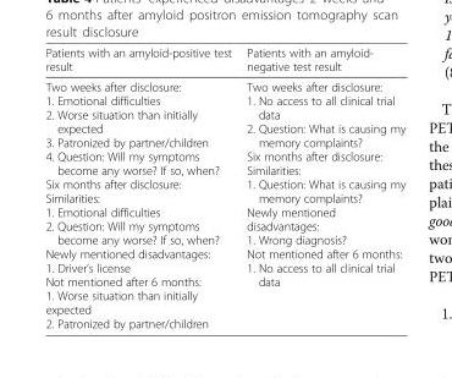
<table><thead><tr><td>Patients with an amyloid-positive test result</td><td>Patients with an amyloid- negative test result</td></tr></thead><tbody><tr><td>Two weeks after disclosure: 1. Emotional difficulties 2. Worse situation than initially expected 3. Patronized by partner/children 4. Question: Will my symptoms become any worse? If so, when? Six months after disclosure: Similarities: 1. Emotional difficulties 2. Question: Will my symptoms become any worse? If so, when? Newly mentioned disadvantages: 1. Driver’s license Not mentioned after 6 months: 1. Worse situation than initially expected 2. Patronized by partner/children</td><td>Two weeks after disclosure: 1. No access to all clinical trial data 2. Question: What is causing my memory complaints? Six months after disclosure: Similarities: 1. Question: What is causing my memory complaints? Newly mentioned disadvantages: 1. Wrong diagnosis? Not mentioned after 6 months: 1. No access to all clinical trial data</td></tr></tbody></table>